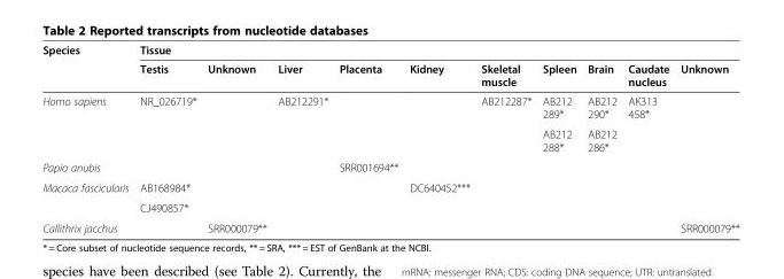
<table><thead><tr><td rowspan="2">Species</td><td colspan="10">Tissue</td></tr><tr><td>Testis</td><td>Unknown</td><td>Liver</td><td>Placenta</td><td>Kidney</td><td>Skeletal muscle</td><td>Spleen</td><td>Brain</td><td>Caudate nucleus</td><td>Unknown</td></tr></thead><tbody><tr><td rowspan="2">Homo sapiens</td><td>NR_026719*</td><td></td><td>AB212291*</td><td></td><td></td><td>AB212287*</td><td>AB212 289*</td><td>AB212 290*</td><td>AK313 458*</td><td></td></tr><tr><td></td><td></td><td></td><td></td><td></td><td></td><td>AB212 288*</td><td>AB212 286*</td><td></td><td></td></tr><tr><td>Papio anubis</td><td></td><td></td><td></td><td>SRR001694**</td><td></td><td></td><td></td><td></td><td></td><td></td></tr><tr><td rowspan="2">Macaca fascicularis</td><td>AB168984*</td><td></td><td></td><td></td><td>DC640452***</td><td></td><td></td><td></td><td></td><td></td></tr><tr><td>CJ490857*</td><td></td><td></td><td></td><td></td><td></td><td></td><td></td><td></td><td></td></tr><tr><td>Callithrix jacchus</td><td></td><td>SRR000079**</td><td></td><td></td><td></td><td></td><td></td><td></td><td></td><td>SRR000079**</td></tr></tbody></table>